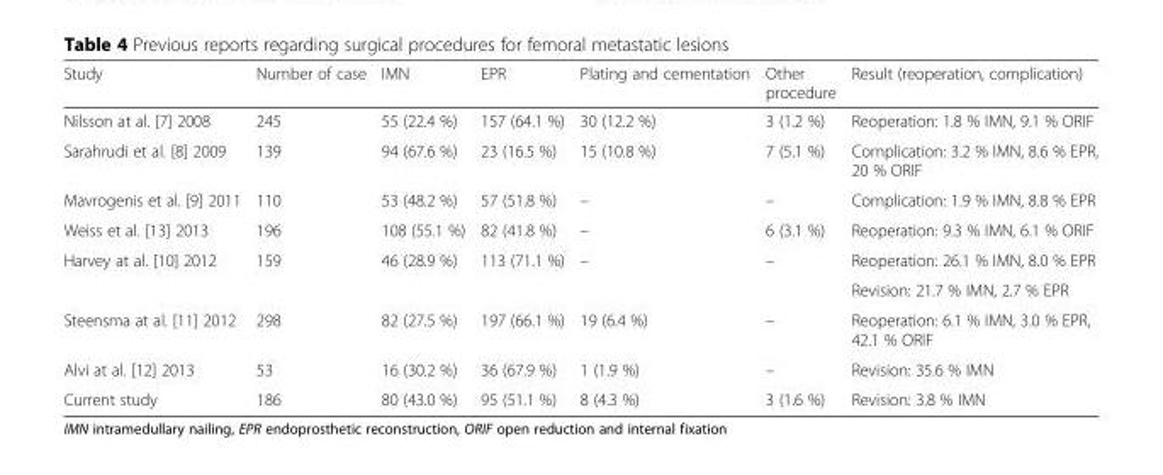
<table><thead><tr><td>Study</td><td>Number of case</td><td>IMN</td><td>EPR</td><td>Plating and cementation</td><td>Other procedure</td><td>Result (reoperation, complication)</td></tr></thead><tbody><tr><td>Nilsson at al. [7] 2008</td><td>245</td><td>55 (22.4 %)</td><td>157 (64.1 %)</td><td>30 (12.2 %)</td><td>3 (1.2 %)</td><td>Reoperation: 1.8 % IMN, 9.1 % ORIF</td></tr><tr><td>Sarahrudi et al. [8] 2009</td><td>139</td><td>94 (67.6 %)</td><td>23 (16.5 %)</td><td>15 (10.8 %)</td><td>7 (5.1 %)</td><td>Complication: 3.2 % IMN, 8.6 % EPR, 20 % ORIF</td></tr><tr><td>Mavrogenis et al. [9] 2011</td><td>110</td><td>53 (48.2 %)</td><td>57 (51.8 %)</td><td>–</td><td>–</td><td>Complication: 1.9 % IMN, 8.8 % EPR</td></tr><tr><td>Weiss et al. [13] 2013</td><td>196</td><td>108 (55.1 %)</td><td>82 (41.8 %)</td><td>–</td><td>6 (3.1 %)</td><td>Reoperation: 9.3 % IMN, 6.1 % ORIF</td></tr><tr><td rowspan="2">Harvey at al. [10] 2012</td><td rowspan="2">159</td><td rowspan="2">46 (28.9 %)</td><td rowspan="2">113 (71.1 %)</td><td rowspan="2">–</td><td rowspan="2">–</td><td>Reoperation: 26.1 % IMN, 8.0 % EPR</td></tr><tr><td>Revision: 21.7 % IMN, 2.7 % EPR</td></tr><tr><td>Steensma at al. [11] 2012</td><td>298</td><td>82 (27.5 %)</td><td>197 (66.1 %)</td><td>19 (6.4 %)</td><td>–</td><td>Reoperation: 6.1 % IMN, 3.0 % EPR, 42.1 % ORIF</td></tr><tr><td>Alvi at al. [12] 2013</td><td>53</td><td>16 (30.2 %)</td><td>36 (67.9 %)</td><td>1 (1.9 %)</td><td>–</td><td>Revision: 35.6 % IMN</td></tr><tr><td>Current study</td><td>186</td><td>80 (43.0 %)</td><td>95 (51.1 %)</td><td>8 (4.3 %)</td><td>3 (1.6 %)</td><td>Revision: 3.8 % IMN</td></tr></tbody></table>